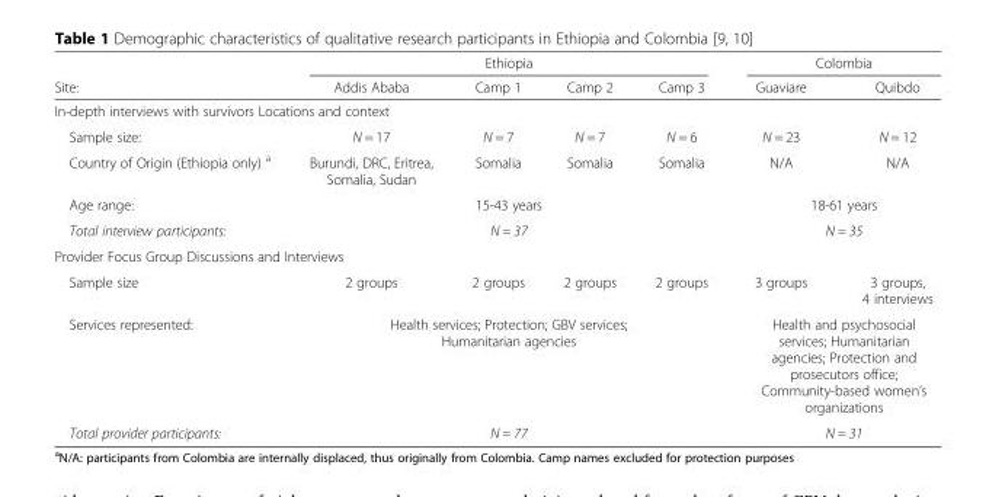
<table><thead><tr><td rowspan="2">Site:</td><td colspan="4">Ethiopia</td><td colspan="2">Colombia</td></tr><tr><td>Addis Ababa</td><td>Camp 1</td><td>Camp 2</td><td>Camp 3</td><td>Guaviare</td><td>Quibdo</td></tr></thead><tbody><tr><td colspan="7">In-depth interviews with survivors Locations and context</td></tr><tr><td>Sample size:</td><td>N = 17</td><td>N = 7</td><td>N = 7</td><td>N = 6</td><td>N = 23</td><td>N = 12</td></tr><tr><td>Country of Origin (Ethiopia only) <sup>a</sup></td><td>Burundi, DRC, Eritrea, Somalia, Sudan</td><td>Somalia</td><td>Somalia</td><td>Somalia</td><td>N/A</td><td>N/A</td></tr><tr><td>Age range:</td><td colspan="4">15-43 years</td><td colspan="2">18-61 years</td></tr><tr><td>Total interview participants:</td><td colspan="4">N = 37</td><td colspan="2">N = 35</td></tr><tr><td colspan="7">Provider Focus Group Discussions and Interviews</td></tr><tr><td>Sample size</td><td>2 groups</td><td>2 groups</td><td>2 groups</td><td>2 groups</td><td>3 groups</td><td>3 groups, 4 interviews</td></tr><tr><td>Services represented:</td><td colspan="4">Health services; Protection; GBV services; Humanitarian agencies</td><td colspan="2">Health and psychosocial services; Humanitarian agencies; Protection and prosecutors office; Community-based women’s organizations</td></tr><tr><td>Total provider participants:</td><td colspan="4">N = 77</td><td colspan="2">N = 31</td></tr></tbody></table>